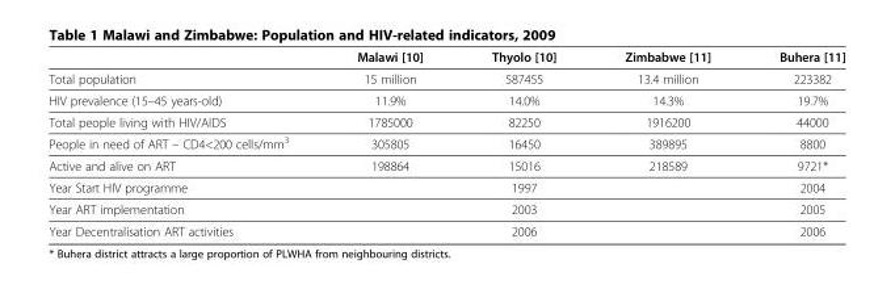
<table><thead><tr><td></td><td>Malawi [10]</td><td>Thyolo [10]</td><td>Zimbabwe [11]</td><td>Buhera [11]</td></tr></thead><tbody><tr><td>Total population</td><td>15 million</td><td>587455</td><td>13.4 million</td><td>223382</td></tr><tr><td>HIV prevalence (15–45 years-old)</td><td>11.9%</td><td>14.0%</td><td>14.3%</td><td>19.7%</td></tr><tr><td>Total people living with HIV/AIDS</td><td>1785000</td><td>82250</td><td>1916200</td><td>44000</td></tr><tr><td>People in need of ART – CD4&lt;200 cells/mm<sup>3</sup></td><td>305805</td><td>16450</td><td>389895</td><td>8800</td></tr><tr><td>Active and alive on ART</td><td>198864</td><td>15016</td><td>218589</td><td>9721*</td></tr><tr><td>Year Start HIV programme</td><td></td><td>1997</td><td></td><td>2004</td></tr><tr><td>Year ART implementation</td><td></td><td>2003</td><td></td><td>2005</td></tr><tr><td>Year Decentralisation ART activities</td><td></td><td>2006</td><td></td><td>2006</td></tr></tbody></table>